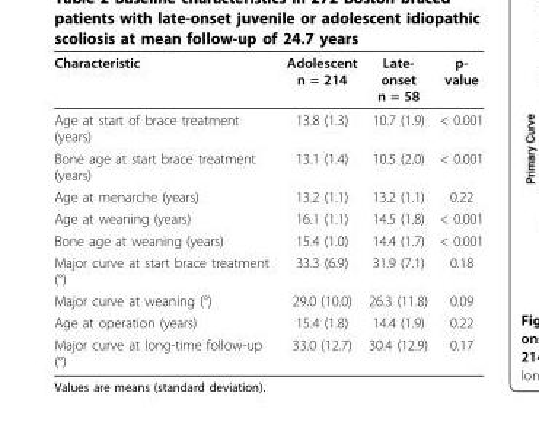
<table><thead><tr><td>Characteristic</td><td>Adolescent n = 214</td><td>Late- onset n = 58</td><td>p- value</td></tr></thead><tbody><tr><td>Age at start of brace treatment (years)</td><td>13.8 (1.3)</td><td>10.7 (1.9)</td><td>&lt; 0.001</td></tr><tr><td>Bone age at start brace treatment (years)</td><td>13.1 (1.4)</td><td>10.5 (2.0)</td><td>&lt; 0.001</td></tr><tr><td>Age at menarche (years)</td><td>13.2 (1.1)</td><td>13.2 (1.1)</td><td>0.22</td></tr><tr><td>Age at weaning (years)</td><td>16.1 (1.1)</td><td>14.5 (1.8)</td><td>&lt; 0.001</td></tr><tr><td>Bone age at weaning (years)</td><td>15.4 (1.0)</td><td>14.4 (1.7)</td><td>&lt; 0.001</td></tr><tr><td>Major curve at start brace treatment (°)</td><td>33.3 (6.9)</td><td>31.9 (7.1)</td><td>0.18</td></tr><tr><td>Major curve at weaning (°)</td><td>29.0 (10.0)</td><td>26.3 (11.8)</td><td>0.09</td></tr><tr><td>Age at operation (years)</td><td>15.4 (1.8)</td><td>14.4 (1.9)</td><td>0.22</td></tr><tr><td>Major curve at long-time follow-up (°)</td><td>33.0 (12.7)</td><td>30.4 (12.9)</td><td>0.17</td></tr></tbody></table>